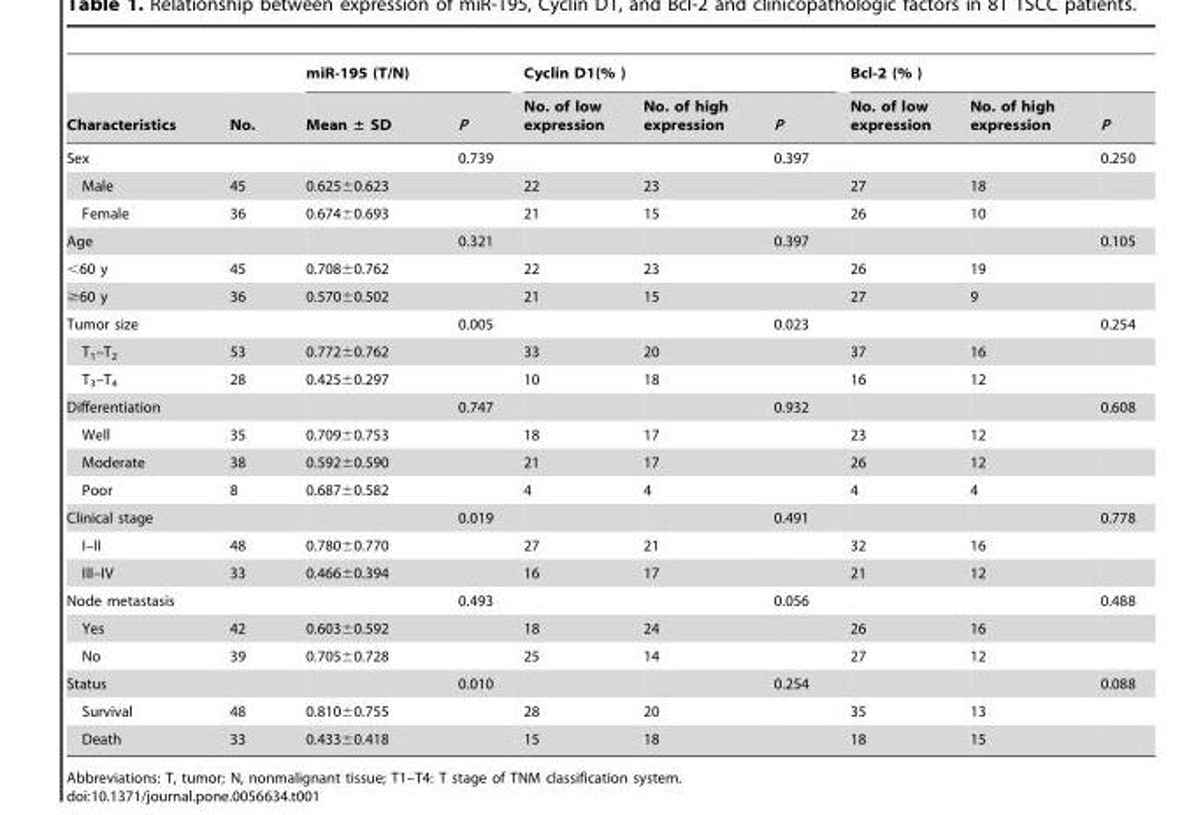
<table><thead><tr><td rowspan="2">Characteristics</td><td rowspan="2">No.</td><td colspan="2">miR-195 (T/N)</td><td colspan="3">Cyclin D1(% )</td><td colspan="3">Bcl-2 (% )</td></tr><tr><td>Mean ± SD</td><td>P</td><td>No. of low expression</td><td>No. of high expression</td><td>P</td><td>No. of low expression</td><td>No. of high expression</td><td>P</td></tr></thead><tbody><tr><td>Sex</td><td></td><td></td><td>0.739</td><td></td><td></td><td>0.397</td><td></td><td></td><td>0.250</td></tr><tr><td>Male</td><td>45</td><td>0.625±0.623</td><td></td><td>22</td><td>23</td><td></td><td>27</td><td>18</td><td></td></tr><tr><td>Female</td><td>36</td><td>0.674±0.693</td><td></td><td>21</td><td>15</td><td></td><td>26</td><td>10</td><td></td></tr><tr><td>Age</td><td></td><td></td><td>0.321</td><td></td><td></td><td>0.397</td><td></td><td></td><td>0.105</td></tr><tr><td>&lt;60 y</td><td>45</td><td>0.708±0.762</td><td></td><td>22</td><td>23</td><td></td><td>26</td><td>19</td><td></td></tr><tr><td>≥60 y</td><td>36</td><td>0.570±0.502</td><td></td><td>21</td><td>15</td><td></td><td>27</td><td>9</td><td></td></tr><tr><td>Tumor size</td><td></td><td></td><td>0.005</td><td></td><td></td><td>0.023</td><td></td><td></td><td>0.254</td></tr><tr><td>T<sub>1</sub>–T<sub>2</sub></td><td>53</td><td>0.772±0.762</td><td></td><td>33</td><td>20</td><td></td><td>37</td><td>16</td><td></td></tr><tr><td>T<sub>3</sub>–T<sub>4</sub></td><td>28</td><td>0.425±0.297</td><td></td><td>10</td><td>18</td><td></td><td>16</td><td>12</td><td></td></tr><tr><td>Differentiation</td><td></td><td></td><td>0.747</td><td></td><td></td><td>0.932</td><td></td><td></td><td>0.608</td></tr><tr><td>Well</td><td>35</td><td>0.709±0.753</td><td></td><td>18</td><td>17</td><td></td><td>23</td><td>12</td><td></td></tr><tr><td>Moderate</td><td>38</td><td>0.592±0.590</td><td></td><td>21</td><td>17</td><td></td><td>26</td><td>12</td><td></td></tr><tr><td>Poor</td><td>8</td><td>0.687±0.582</td><td></td><td>4</td><td>4</td><td></td><td>4</td><td>4</td><td></td></tr><tr><td>Clinical stage</td><td></td><td></td><td>0.019</td><td></td><td></td><td>0.491</td><td></td><td></td><td>0.778</td></tr><tr><td>I–II</td><td>48</td><td>0.780±0.770</td><td></td><td>27</td><td>21</td><td></td><td>32</td><td>16</td><td></td></tr><tr><td>III–IV</td><td>33</td><td>0.466±0.394</td><td></td><td>16</td><td>17</td><td></td><td>21</td><td>12</td><td></td></tr><tr><td>Node metastasis</td><td></td><td></td><td>0.493</td><td></td><td></td><td>0.056</td><td></td><td></td><td>0.488</td></tr><tr><td>Yes</td><td>42</td><td>0.603±0.592</td><td></td><td>18</td><td>24</td><td></td><td>26</td><td>16</td><td></td></tr><tr><td>No</td><td>39</td><td>0.705±0.728</td><td></td><td>25</td><td>14</td><td></td><td>27</td><td>12</td><td></td></tr><tr><td>Status</td><td></td><td></td><td>0.010</td><td></td><td></td><td>0.254</td><td></td><td></td><td>0.088</td></tr><tr><td>Survival</td><td>48</td><td>0.810±0.755</td><td></td><td>28</td><td>20</td><td></td><td>35</td><td>13</td><td></td></tr><tr><td>Death</td><td>33</td><td>0.433±0.418</td><td></td><td>15</td><td>18</td><td></td><td>18</td><td>15</td><td></td></tr></tbody></table>